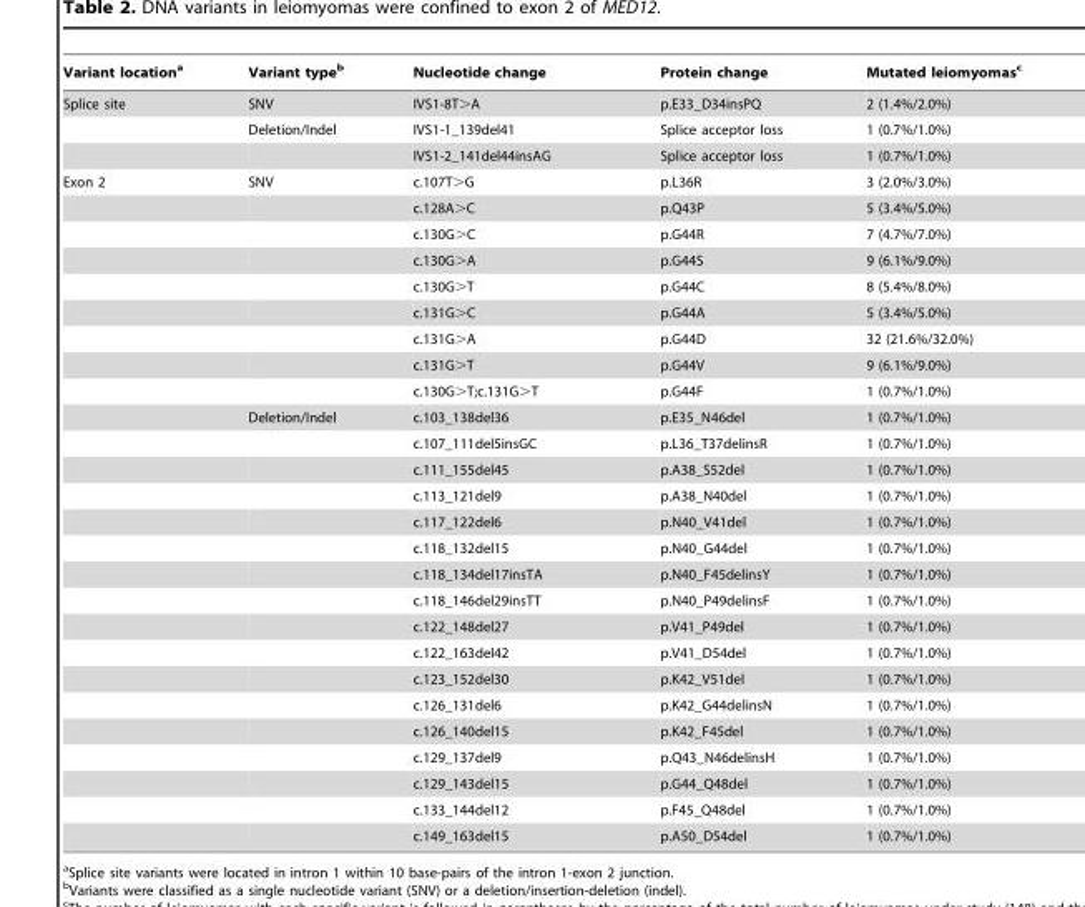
<table><thead><tr><td>Variant location<sup>a</sup></td><td>Variant type<sup>b</sup></td><td>Nucleotide change</td><td>Protein change</td><td>Mutated leiomyomas<sup>c</sup></td></tr></thead><tbody><tr><td rowspan="3">Splice site</td><td>SNV</td><td>IVS1-8T&gt;A</td><td>p.E33_D34insPQ</td><td>2 (1.4%/2.0%)</td></tr><tr><td>Deletion/Indel</td><td>IVS1-1_139del41</td><td>Splice acceptor loss</td><td>1 (0.7%/1.0%)</td></tr><tr><td></td><td>IVS1-2_141del44insAG</td><td>Splice acceptor loss</td><td>1 (0.7%/1.0%)</td></tr><tr><td rowspan="26">Exon 2</td><td>SNV</td><td>c.107T&gt;G</td><td>p.L36R</td><td>3 (2.0%/3.0%)</td></tr><tr><td></td><td>c.128A&gt;C</td><td>p.Q43P</td><td>5 (3.4%/5.0%)</td></tr><tr><td></td><td>c.130G&gt;C</td><td>p.G44R</td><td>7 (4.7%/7.0%)</td></tr><tr><td></td><td>c.130G&gt;A</td><td>p.G44S</td><td>9 (6.1%/9.0%)</td></tr><tr><td></td><td>c.130G&gt;T</td><td>p.G44C</td><td>8 (5.4%/8.0%)</td></tr><tr><td></td><td>c.131G&gt;C</td><td>p.G44A</td><td>5 (3.4%/5.0%)</td></tr><tr><td></td><td>c.131G&gt;A</td><td>p.G44D</td><td>32 (21.6%/32.0%)</td></tr><tr><td></td><td>c.131G&gt;T</td><td>p.G44V</td><td>9 (6.1%/9.0%)</td></tr><tr><td></td><td>c.130G&gt;T;c.131G&gt;T</td><td>p.G44F</td><td>1 (0.7%/1.0%)</td></tr><tr><td>Deletion/Indel</td><td>c.103_138del36</td><td>p.E35_N46del</td><td>1 (0.7%/1.0%)</td></tr><tr><td></td><td>c.107_111del5insGC</td><td>p.L36_T37delinsR</td><td>1 (0.7%/1.0%)</td></tr><tr><td></td><td>c.111_155del45</td><td>p.A38_S52del</td><td>1 (0.7%/1.0%)</td></tr><tr><td></td><td>c.113_121del9</td><td>p.A38_N40del</td><td>1 (0.7%/1.0%)</td></tr><tr><td></td><td>c.117_122del6</td><td>p.N40_V41del</td><td>1 (0.7%/1.0%)</td></tr><tr><td></td><td>c.118_132del15</td><td>p.N40_G44del</td><td>1 (0.7%/1.0%)</td></tr><tr><td></td><td>c.118_134del17insTA</td><td>p.N40_F45delinsY</td><td>1 (0.7%/1.0%)</td></tr><tr><td></td><td>c.118_146del29insTT</td><td>p.N40_P49delinsF</td><td>1 (0.7%/1.0%)</td></tr><tr><td></td><td>c.122_148del27</td><td>p.V41_P49del</td><td>1 (0.7%/1.0%)</td></tr><tr><td></td><td>c.122_163del42</td><td>p.V41_D54del</td><td>1 (0.7%/1.0%)</td></tr><tr><td></td><td>c.123_152del30</td><td>p.K42_V51del</td><td>1 (0.7%/1.0%)</td></tr><tr><td></td><td>c.126_131del6</td><td>p.K42_G44delinsN</td><td>1 (0.7%/1.0%)</td></tr><tr><td></td><td>c.126_140del15</td><td>p.K42_F45del</td><td>1 (0.7%/1.0%)</td></tr><tr><td></td><td>c.129_137del9</td><td>p.Q43_N46delinsH</td><td>1 (0.7%/1.0%)</td></tr><tr><td></td><td>c.129_143del15</td><td>p.G44_Q48del</td><td>1 (0.7%/1.0%)</td></tr><tr><td></td><td>c.133_144del12</td><td>p.F45_Q48del</td><td>1 (0.7%/1.0%)</td></tr><tr><td></td><td>c.149_163del15</td><td>p.A50_D54del</td><td>1 (0.7%/1.0%)</td></tr></tbody></table>